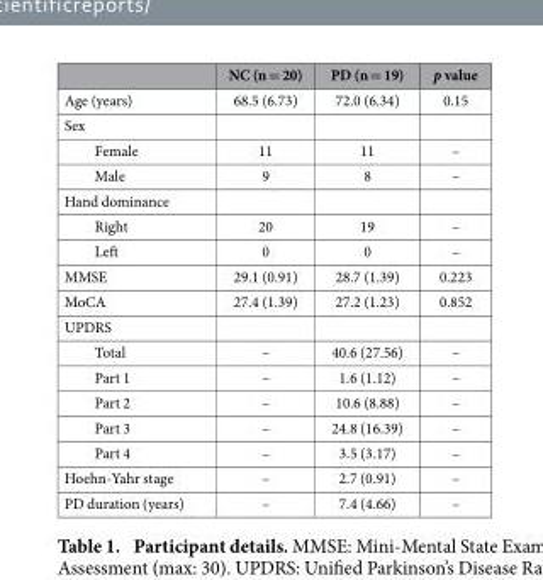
<table><thead><tr><td></td><td>NC (n = 20)</td><td>PD (n = 19)</td><td>p value</td></tr></thead><tbody><tr><td>Age (years)</td><td>68.5 (6.73)</td><td>72.0 (6.34)</td><td>0.15</td></tr><tr><td colspan="4">Sex</td></tr><tr><td>Female</td><td>11</td><td>11</td><td>–</td></tr><tr><td>Male</td><td>9</td><td>8</td><td>–</td></tr><tr><td colspan="4">Hand dominance</td></tr><tr><td>Right</td><td>20</td><td>19</td><td>–</td></tr><tr><td>Left</td><td>0</td><td>0</td><td>–</td></tr><tr><td>MMSE</td><td>29.1 (0.91)</td><td>28.7 (1.39)</td><td>0.223</td></tr><tr><td>MoCA</td><td>27.4 (1.39)</td><td>27.2 (1.23)</td><td>0.852</td></tr><tr><td colspan="4">UPDRS</td></tr><tr><td>Total</td><td>–</td><td>40.6 (27.56)</td><td>–</td></tr><tr><td>Part 1</td><td>–</td><td>1.6 (1.12)</td><td>–</td></tr><tr><td>Part 2</td><td>–</td><td>10.6 (8.88)</td><td>–</td></tr><tr><td>Part 3</td><td>–</td><td>24.8 (16.39)</td><td>–</td></tr><tr><td>Part 4</td><td>–</td><td>3.5 (3.17)</td><td>–</td></tr><tr><td>Hoehn-Yahr stage</td><td>–</td><td>2.7 (0.91)</td><td>–</td></tr><tr><td>PD duration (years)</td><td>–</td><td>7.4 (4.66)</td><td>–</td></tr></tbody></table>